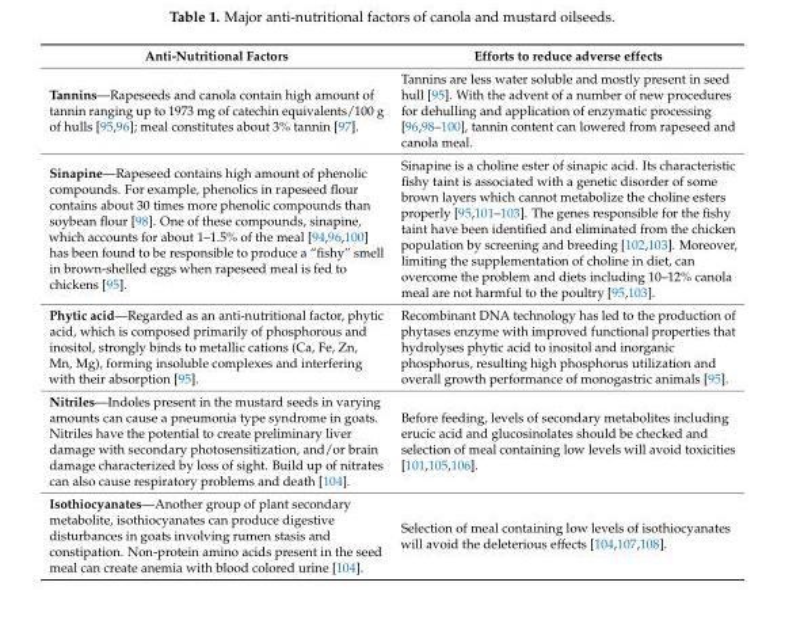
<table><thead><tr><td>Anti-Nutritional Factors</td><td>Efforts to reduce adverse effects</td></tr></thead><tbody><tr><td>Tannins—Rapeseeds and canola contain high amount of tannin ranging up to 1973 mg of catechin equivalents/100 g of hulls [95,96]; meal constitutes about 3% tannin [97].</td><td>Tannins are less water soluble and mostly present in seed hull [95]. With the advent of a number of new procedures for dehulling and application of enzymatic processing [96,98–100], tannin content can lowered from rapeseed and canola meal.</td></tr><tr><td>Sinapine—Rapeseed contains high amount of phenolic compounds. For example, phenolics in rapeseed flour contains about 30 times more phenolic compounds than soybean flour [98]. One of these compounds, sinapine, which accounts for about 1–1.5% of the meal [94,96,100] has been found to be responsible to produce a “fishy” smell in brown-shelled eggs when rapeseed meal is fed to chickens [95].</td><td>Sinapine is a choline ester of sinapic acid. Its characteristic fishy taint is associated with a genetic disorder of some brown layers which cannot metabolize the choline esters properly [95,101–103]. The genes responsible for the fishy taint have been identified and eliminated from the chicken population by screening and breeding [102,103]. Moreover, limiting the supplementation of choline in diet, can overcome the problem and diets including 10–12% canola meal are not harmful to the poultry [95,103].</td></tr><tr><td>Phytic acid—Regarded as an anti-nutritional factor, phytic acid, which is composed primarily of phosphorous and inositol, strongly binds to metallic cations (Ca, Fe, Zn, Mn, Mg), forming insoluble complexes and interfering with their absorption [95].</td><td>Recombinant DNA technology has led to the production of phytases enzyme with improved functional properties that hydrolyses phytic acid to inositol and inorganic phosphorus, resulting high phosphorus utilization and overall growth performance of monogastric animals [95].</td></tr><tr><td>Nitriles—Indoles present in the mustard seeds in varying amounts can cause a pneumonia type syndrome in goats. Nitriles have the potential to create preliminary liver damage with secondary photosensitization, and/or brain damage characterized by loss of sight. Build up of nitrates can also cause respiratory problems and death [104].</td><td>Before feeding, levels of secondary metabolites including erucic acid and glucosinolates should be checked and selection of meal containing low levels will avoid toxicities [101,105,106].</td></tr><tr><td>Isothiocyanates—Another group of plant secondary metabolite, isothiocyanates can produce digestive disturbances in goats involving rumen stasis and constipation. Non-protein amino acids present in the seed meal can create anemia with blood colored urine [104].</td><td>Selection of meal containing low levels of isothiocyanates will avoid the deleterious effects [104,107,108].</td></tr></tbody></table>